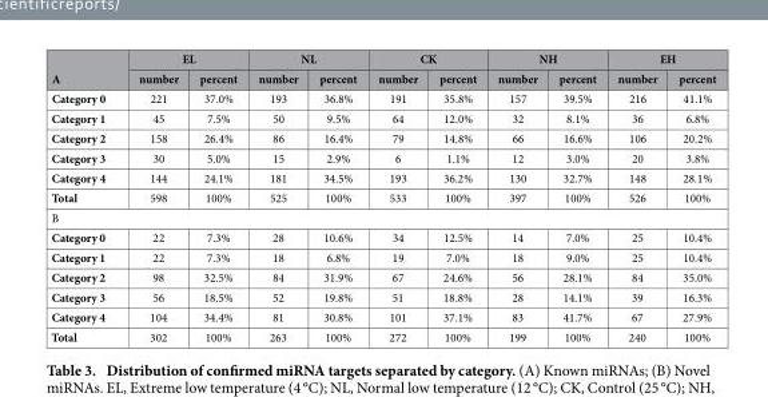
<table><thead><tr><td rowspan="2">A</td><td colspan="2">EL</td><td colspan="2">NL</td><td colspan="2">CK</td><td colspan="2">NH</td><td colspan="2">EH</td></tr><tr><td>number</td><td>percent</td><td>number</td><td>percent</td><td>number</td><td>percent</td><td>number</td><td>percent</td><td>number</td><td>percent</td></tr></thead><tbody><tr><td>Category 0</td><td>221</td><td>37.0%</td><td>193</td><td>36.8%</td><td>191</td><td>35.8%</td><td>157</td><td>39.5%</td><td>216</td><td>41.1%</td></tr><tr><td>Category 1</td><td>45</td><td>7.5%</td><td>50</td><td>9.5%</td><td>64</td><td>12.0%</td><td>32</td><td>8.1%</td><td>36</td><td>6.8%</td></tr><tr><td>Category 2</td><td>158</td><td>26.4%</td><td>86</td><td>16.4%</td><td>79</td><td>14.8%</td><td>66</td><td>16.6%</td><td>106</td><td>20.2%</td></tr><tr><td>Category 3</td><td>30</td><td>5.0%</td><td>15</td><td>2.9%</td><td>6</td><td>1.1%</td><td>12</td><td>3.0%</td><td>20</td><td>3.8%</td></tr><tr><td>Category 4</td><td>144</td><td>24.1%</td><td>181</td><td>34.5%</td><td>193</td><td>36.2%</td><td>130</td><td>32.7%</td><td>148</td><td>28.1%</td></tr><tr><td>Total</td><td>598</td><td>100%</td><td>525</td><td>100%</td><td>533</td><td>100%</td><td>397</td><td>100%</td><td>526</td><td>100%</td></tr><tr><td colspan="11">B</td></tr><tr><td>Category 0</td><td>22</td><td>7.3%</td><td>28</td><td>10.6%</td><td>34</td><td>12.5%</td><td>14</td><td>7.0%</td><td>25</td><td>10.4%</td></tr><tr><td>Category 1</td><td>22</td><td>7.3%</td><td>18</td><td>6.8%</td><td>19</td><td>7.0%</td><td>18</td><td>9.0%</td><td>25</td><td>10.4%</td></tr><tr><td>Category 2</td><td>98</td><td>32.5%</td><td>84</td><td>31.9%</td><td>67</td><td>24.6%</td><td>56</td><td>28.1%</td><td>84</td><td>35.0%</td></tr><tr><td>Category 3</td><td>56</td><td>18.5%</td><td>52</td><td>19.8%</td><td>51</td><td>18.8%</td><td>28</td><td>14.1%</td><td>39</td><td>16.3%</td></tr><tr><td>Category 4</td><td>104</td><td>34.4%</td><td>81</td><td>30.8%</td><td>101</td><td>37.1%</td><td>83</td><td>41.7%</td><td>67</td><td>27.9%</td></tr><tr><td>Total</td><td>302</td><td>100%</td><td>263</td><td>100%</td><td>272</td><td>100%</td><td>199</td><td>100%</td><td>240</td><td>100%</td></tr></tbody></table>